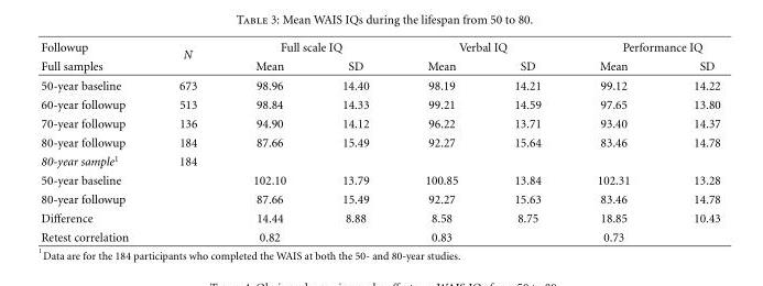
<table><thead><tr><td rowspan="2">Followup Full samples</td><td rowspan="2">N</td><td colspan="2">Full scale IQ</td><td colspan="2">Verbal IQ</td><td colspan="2">Performance IQ</td></tr><tr><td>Mean</td><td>SD</td><td>Mean</td><td>SD</td><td>Mean</td><td>SD</td></tr></thead><tbody><tr><td>50-year baseline</td><td>673</td><td>98.96</td><td>14.40</td><td>98.19</td><td>14.21</td><td>99.12</td><td>14.22</td></tr><tr><td>60-year followup</td><td>513</td><td>98.84</td><td>14.33</td><td>99.21</td><td>14.59</td><td>97.65</td><td>13.80</td></tr><tr><td>70-year followup</td><td>136</td><td>94.90</td><td>14.12</td><td>96.22</td><td>13.71</td><td>93.40</td><td>14.37</td></tr><tr><td>80-year followup</td><td>184</td><td>87.66</td><td>15.49</td><td>92.27</td><td>15.64</td><td>83.46</td><td>14.78</td></tr><tr><td>80-year sample<sup>1</sup></td><td>184</td><td></td><td></td><td></td><td></td><td></td><td></td></tr><tr><td>50-year baseline</td><td></td><td>102.10</td><td>13.79</td><td>100.85</td><td>13.84</td><td>102.31</td><td>13.28</td></tr><tr><td>80-year followup</td><td></td><td>87.66</td><td>15.49</td><td>92.27</td><td>15.63</td><td>83.46</td><td>14.78</td></tr><tr><td>Difference</td><td></td><td>14.44</td><td>8.88</td><td>8.58</td><td>8.75</td><td>18.85</td><td>10.43</td></tr><tr><td>Retest correlation</td><td></td><td>0.82</td><td></td><td>0.83</td><td></td><td>0.73</td><td></td></tr></tbody></table>